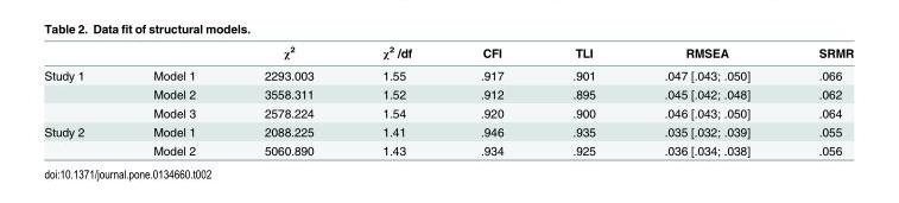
<table><thead><tr><td></td><td></td><td>χ<sup>2</sup></td><td>χ<sup>2</sup> /df</td><td>CFI</td><td>TLI</td><td>RMSEA</td><td>SRMR</td></tr></thead><tbody><tr><td rowspan="3">Study 1</td><td>Model 1</td><td>2293.003</td><td>1.55</td><td>.917</td><td>.901</td><td>.047 [.043; .050]</td><td>.066</td></tr><tr><td>Model 2</td><td>3558.311</td><td>1.52</td><td>.912</td><td>.895</td><td>.045 [.042; .048]</td><td>.062</td></tr><tr><td>Model 3</td><td>2578.224</td><td>1.54</td><td>.920</td><td>.900</td><td>.046 [.043; .050]</td><td>.064</td></tr><tr><td rowspan="2">Study 2</td><td>Model 1</td><td>2088.225</td><td>1.41</td><td>.946</td><td>.935</td><td>.035 [.032; .039]</td><td>.055</td></tr><tr><td>Model 2</td><td>5060.890</td><td>1.43</td><td>.934</td><td>.925</td><td>.036 [.034; .038]</td><td>.056</td></tr></tbody></table>